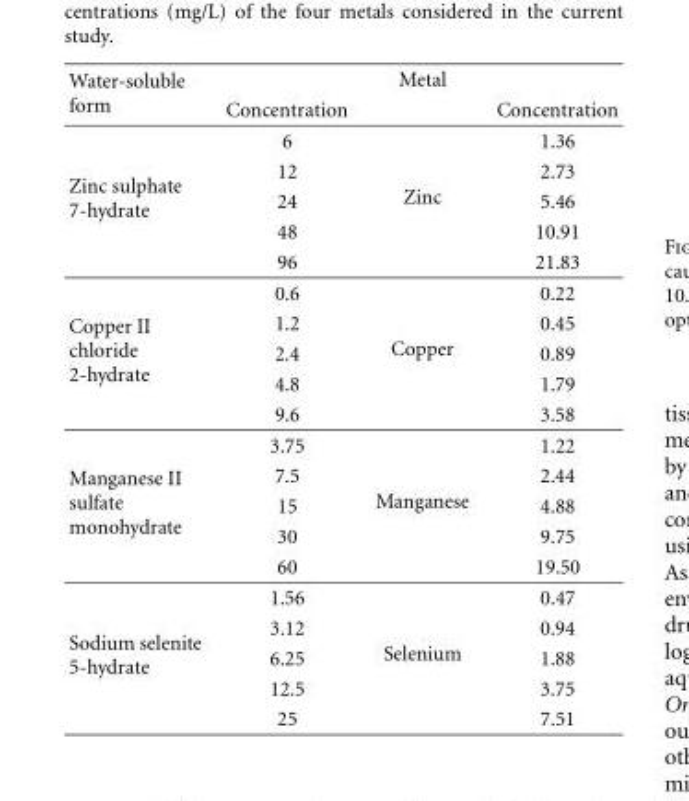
<table><thead><tr><td rowspan="2">Water-soluble form</td><td rowspan="2">Concentration</td><td rowspan="2">Metal</td><td rowspan="2">Concentration</td></tr><tr></tr></thead><tbody><tr><td rowspan="5">Zinc sulphate 7-hydrate</td><td>6</td><td rowspan="5">Zinc</td><td>1.36</td></tr><tr><td>12</td><td>2.73</td></tr><tr><td>24</td><td>5.46</td></tr><tr><td>48</td><td>10.91</td></tr><tr><td>96</td><td>21.83</td></tr><tr><td rowspan="5">Copper II chloride 2-hydrate</td><td>0.6</td><td rowspan="5">Copper</td><td>0.22</td></tr><tr><td>1.2</td><td>0.45</td></tr><tr><td>2.4</td><td>0.89</td></tr><tr><td>4.8</td><td>1.79</td></tr><tr><td>9.6</td><td>3.58</td></tr><tr><td rowspan="5">Manganese II sulfate monohydrate</td><td>3.75</td><td rowspan="5">Manganese</td><td>1.22</td></tr><tr><td>7.5</td><td>2.44</td></tr><tr><td>15</td><td>4.88</td></tr><tr><td>30</td><td>9.75</td></tr><tr><td>60</td><td>19.50</td></tr><tr><td rowspan="5">Sodium selenite 5-hydrate</td><td>1.56</td><td rowspan="5">Selenium</td><td>0.47</td></tr><tr><td>3.12</td><td>0.94</td></tr><tr><td>6.25</td><td>1.88</td></tr><tr><td>12.5</td><td>3.75</td></tr><tr><td>25</td><td>7.51</td></tr></tbody></table>